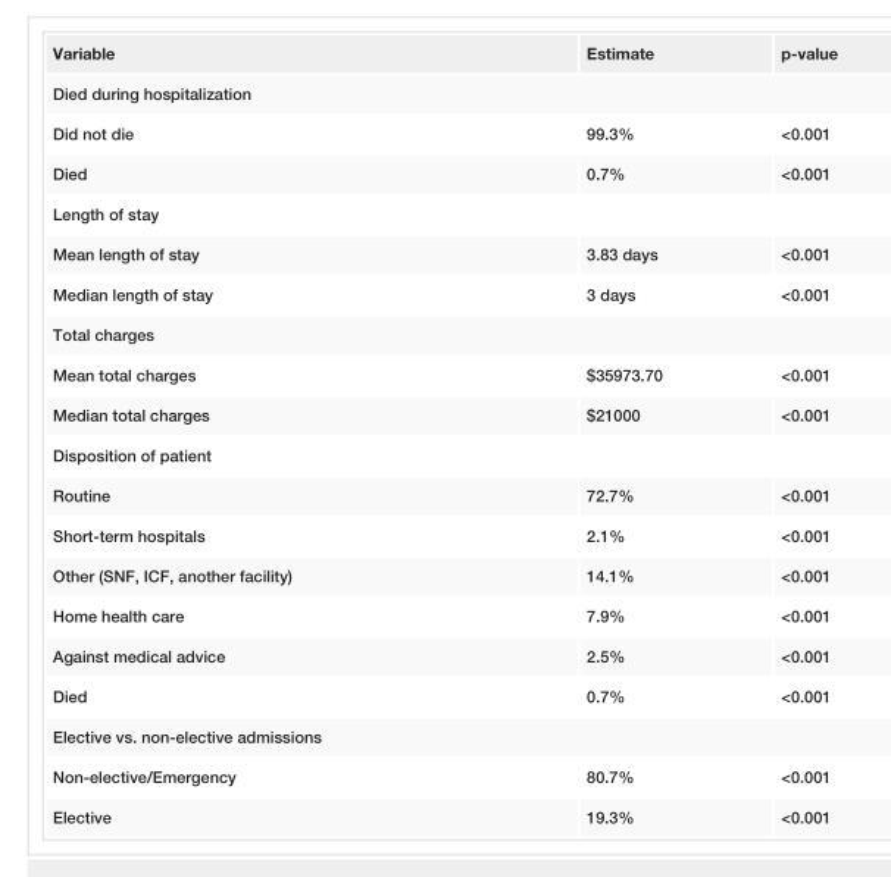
<table><tbody><tr><td>Variable</td><td>Estimate</td><td>p-value</td></tr><tr><td colspan="3">Died during hospitalization</td></tr><tr><td>Did not die</td><td>99.3%</td><td>&lt;0.001</td></tr><tr><td>Died</td><td>0.7%</td><td>&lt;0.001</td></tr><tr><td colspan="3">Length of stay</td></tr><tr><td>Mean length of stay</td><td>3.83 days</td><td>&lt;0.001</td></tr><tr><td>Median length of stay</td><td>3 days</td><td>&lt;0.001</td></tr><tr><td colspan="3">Total charges</td></tr><tr><td>Mean total charges</td><td>$35973.70</td><td>&lt;0.001</td></tr><tr><td>Median total charges</td><td>$21000</td><td>&lt;0.001</td></tr><tr><td colspan="3">Disposition of patient</td></tr><tr><td>Routine</td><td>72.7%</td><td>&lt;0.001</td></tr><tr><td>Short-term hospitals</td><td>2.1%</td><td>&lt;0.001</td></tr><tr><td>Other (SNF, ICF, another facility)</td><td>14.1%</td><td>&lt;0.001</td></tr><tr><td>Home health care</td><td>7.9%</td><td>&lt;0.001</td></tr><tr><td>Against medical advice</td><td>2.5%</td><td>&lt;0.001</td></tr><tr><td>Died</td><td>0.7%</td><td>&lt;0.001</td></tr><tr><td colspan="3">Elective vs. non-elective admissions</td></tr><tr><td>Non-elective/Emergency</td><td>80.7%</td><td>&lt;0.001</td></tr><tr><td>Elective</td><td>19.3%</td><td>&lt;0.001</td></tr></tbody></table>